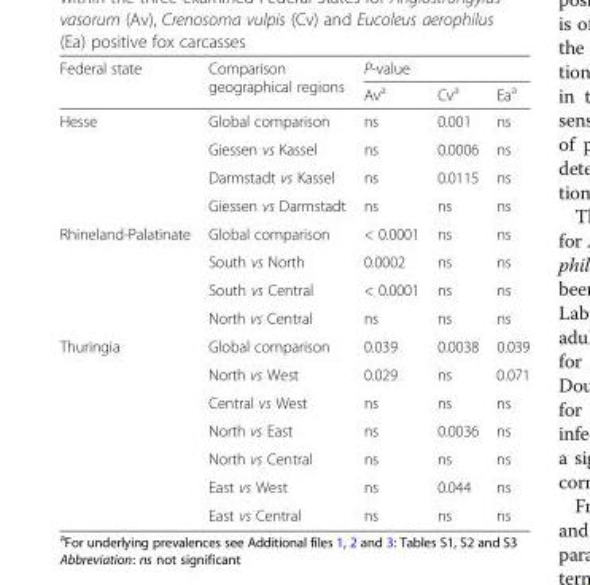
<table><thead><tr><td rowspan="2">Federal state</td><td rowspan="2">Comparison geographical regions</td><td colspan="3">P-value</td></tr><tr><td>Av<sup>a</sup></td><td>Cv<sup>a</sup></td><td>Ea<sup>a</sup></td></tr></thead><tbody><tr><td rowspan="4">Hesse</td><td>Global comparison</td><td>ns</td><td>0.001</td><td>ns</td></tr><tr><td>Giessen vs Kassel</td><td>ns</td><td>0.0006</td><td>ns</td></tr><tr><td>Darmstadt vs Kassel</td><td>ns</td><td>0.0115</td><td>ns</td></tr><tr><td>Giessen vs Darmstadt</td><td>ns</td><td>ns</td><td>ns</td></tr><tr><td rowspan="4">Rhineland-Palatinate</td><td>Global comparison</td><td>&lt; 0.0001</td><td>ns</td><td>ns</td></tr><tr><td>South vs North</td><td>0.0002</td><td>ns</td><td>ns</td></tr><tr><td>South vs Central</td><td>&lt; 0.0001</td><td>ns</td><td>ns</td></tr><tr><td>North vs Central</td><td>ns</td><td>ns</td><td>ns</td></tr><tr><td rowspan="7">Thuringia</td><td>Global comparison</td><td>0.039</td><td>0.0038</td><td>0.039</td></tr><tr><td>North vs West</td><td>0.029</td><td>ns</td><td>0.071</td></tr><tr><td>Central vs West</td><td>ns</td><td>ns</td><td>ns</td></tr><tr><td>North vs East</td><td>ns</td><td>0.0036</td><td>ns</td></tr><tr><td>North vs Central</td><td>ns</td><td>ns</td><td>ns</td></tr><tr><td>East vs West</td><td>ns</td><td>0.044</td><td>ns</td></tr><tr><td>East vs Central</td><td>ns</td><td>ns</td><td>ns</td></tr></tbody></table>